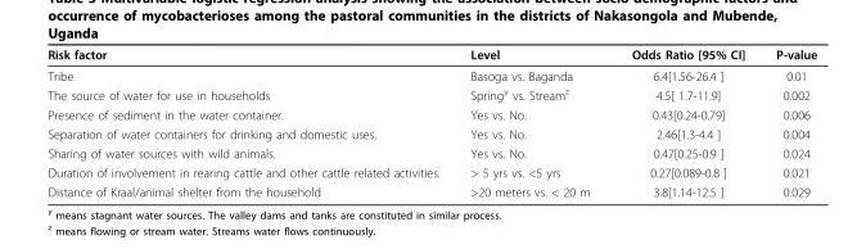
<table><thead><tr><td>Risk factor</td><td>Level</td><td>Odds Ratio [95% CI]</td><td>P-value</td></tr></thead><tbody><tr><td>Tribe</td><td>Basoga vs. Baganda</td><td>6.4[1.56-26.4 ]</td><td>0.01</td></tr><tr><td>The source of water for use in households</td><td>Spring<sup>y</sup> vs. Stream<sup>z</sup></td><td>4.5[ 1.7-11.9]</td><td>0.002</td></tr><tr><td>Presence of sediment in the water container.</td><td>Yes vs. No.</td><td>0.43[0.24-0.79]</td><td>0.006</td></tr><tr><td>Separation of water containers for drinking and domestic uses.</td><td>Yes vs. No.</td><td>2.46[1.3-4.4 ]</td><td>0.004</td></tr><tr><td>Sharing of water sources with wild animals.</td><td>Yes vs. No.</td><td>0.47[0.25-0.9 ]</td><td>0.024</td></tr><tr><td>Duration of involvement in rearing cattle and other cattle related activities.</td><td>&gt; 5 yrs vs. &lt;5 yrs</td><td>0.27[0.089-0.8 ]</td><td>0.021</td></tr><tr><td>Distance of Kraal/animal shelter from the household</td><td>&gt;20 meters vs. &lt; 20 m</td><td>3.8[1.14-12.5 ]</td><td>0.029</td></tr></tbody></table>